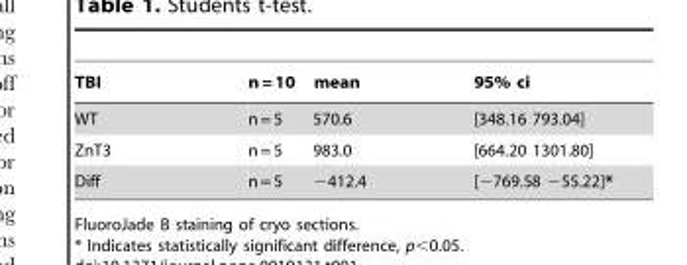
<table><thead><tr><td>TBI</td><td>n = 10 mean</td><td>95% ci</td></tr></thead><tbody><tr><td>WT</td><td>n = 5 570.6</td><td>[348.16 793.04]</td></tr><tr><td>ZnT3</td><td>n = 5 983.0</td><td>[664.20 1301.80]</td></tr><tr><td>Diff</td><td>n = 5 −412.4</td><td>[−769.58 −55.22]*</td></tr></tbody></table>